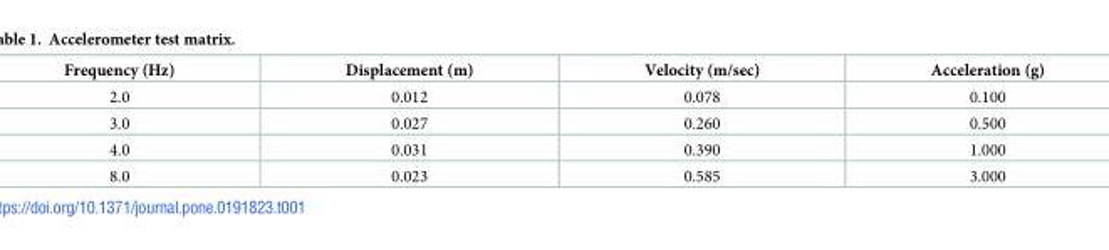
<table><thead><tr><td>Frequency (Hz)</td><td>Displacement (m)</td><td>Velocity (m/sec)</td><td>Acceleration (g)</td></tr></thead><tbody><tr><td>2.0</td><td>0.012</td><td>0.078</td><td>0.100</td></tr><tr><td>3.0</td><td>0.027</td><td>0.260</td><td>0.500</td></tr><tr><td>4.0</td><td>0.031</td><td>0.390</td><td>1.000</td></tr><tr><td>8.0</td><td>0.023</td><td>0.585</td><td>3.000</td></tr></tbody></table>